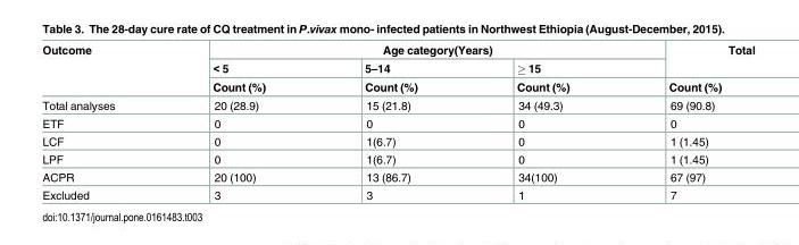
<table><thead><tr><td rowspan="3">Outcome</td><td colspan="3">Age category(Years)</td><td rowspan="3">Total Count (%)</td></tr><tr><td rowspan="2">&lt; 5 Count (%)</td><td rowspan="2">5–14 Count (%)</td><td rowspan="2">≥ 15 Count (%)</td></tr><tr></tr></thead><tbody><tr><td>Total analyses</td><td>20 (28.9)</td><td>15 (21.8)</td><td>34 (49.3)</td><td>69 (90.8)</td></tr><tr><td>ETF</td><td>0</td><td>0</td><td>0</td><td>0</td></tr><tr><td>LCF</td><td>0</td><td>1(6.7)</td><td>0</td><td>1 (1.45)</td></tr><tr><td>LPF</td><td>0</td><td>1(6.7)</td><td>0</td><td>1 (1.45)</td></tr><tr><td>ACPR</td><td>20 (100)</td><td>13 (86.7)</td><td>34(100)</td><td>67 (97)</td></tr><tr><td>Excluded</td><td>3</td><td>3</td><td>1</td><td>7</td></tr></tbody></table>